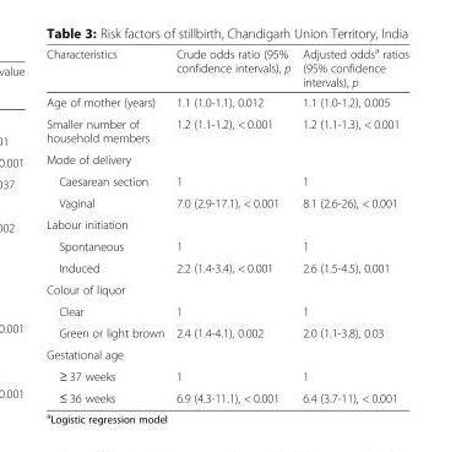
<table><thead><tr><td>Characteristics</td><td>Crude odds ratio (95% confidence intervals), p</td><td>Adjusted odds<sup>a</sup> ratios (95% confidence intervals), p</td></tr></thead><tbody><tr><td>Age of mother (years)</td><td>1.1 (1.0-1.1), 0.012</td><td>1.1 (1.0-1.2), 0.005</td></tr><tr><td>Smaller number of household members</td><td>1.2 (1.1-1.2), &lt; 0.001</td><td>1.2 (1.1-1.3), &lt; 0.001</td></tr><tr><td colspan="3">Mode of delivery</td></tr><tr><td>Caesarean section</td><td>1</td><td>1</td></tr><tr><td>Vaginal</td><td>7.0 (2.9-17.1), &lt; 0.001</td><td>8.1 (2.6-26), &lt; 0.001</td></tr><tr><td colspan="3">Labour initiation</td></tr><tr><td>Spontaneous</td><td>1</td><td>1</td></tr><tr><td>Induced</td><td>2.2 (1.4-3.4), &lt; 0.001</td><td>2.6 (1.5-4.5), 0.001</td></tr><tr><td colspan="3">Colour of liquor</td></tr><tr><td>Clear</td><td>1</td><td>1</td></tr><tr><td>Green or light brown</td><td>2.4 (1.4-4.1), 0.002</td><td>2.0 (1.1-3.8), 0.03</td></tr><tr><td colspan="3">Gestational age</td></tr><tr><td>≥ 37 weeks</td><td>1</td><td>1</td></tr><tr><td>≤ 36 weeks</td><td>6.9 (4.3-11.1), &lt; 0.001</td><td>6.4 (3.7-11), &lt; 0.001</td></tr></tbody></table>